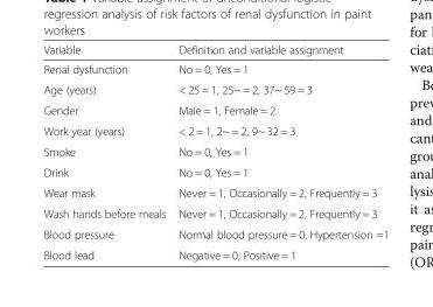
<table><thead><tr><td>Variable</td><td>Definition and variable assignment</td></tr></thead><tbody><tr><td>Renal dysfunction</td><td>No = 0, Yes = 1</td></tr><tr><td>Age (years)</td><td>&lt; 25 = 1, 25~ = 2, 37~ 59 = 3</td></tr><tr><td>Gender</td><td>Male = 1, Female = 2</td></tr><tr><td>Work year (years)</td><td>&lt; 2 = 1, 2~ = 2, 9~ 32 = 3</td></tr><tr><td>Smoke</td><td>No = 0, Yes = 1</td></tr><tr><td>Drink</td><td>No = 0, Yes = 1</td></tr><tr><td>Wear mask</td><td>Never = 1, Occasionally = 2, Frequently = 3</td></tr><tr><td>Wash hands before meals</td><td>Never = 1, Occasionally = 2, Frequently = 3</td></tr><tr><td>Blood pressure</td><td>Normal blood pressure = 0, Hypertension =1</td></tr><tr><td>Blood lead</td><td>Negative = 0, Positive = 1</td></tr></tbody></table>